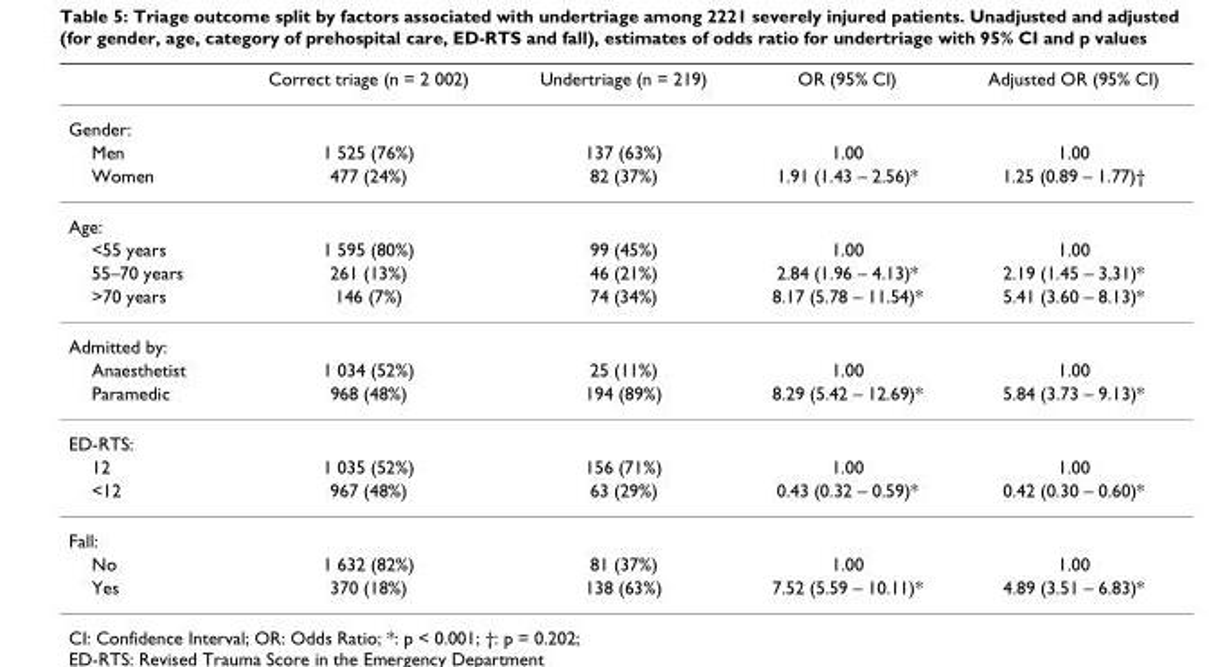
<table><thead><tr><td></td><td>Correct triage (n = 2 002)</td><td>Undertriage (n = 219)</td><td>OR (95% CI)</td><td>Adjusted OR (95% CI)</td></tr></thead><tbody><tr><td colspan="5">Gender:</td></tr><tr><td>Men</td><td>1 525 (76%)</td><td>137 (63%)</td><td>1.00</td><td>1.00</td></tr><tr><td>Women</td><td>477 (24%)</td><td>82 (37%)</td><td>1.91 (1.43 – 2.56)*</td><td>1.25 (0.89 – 1.77)†</td></tr><tr><td colspan="5">Age:</td></tr><tr><td>&lt;55 years</td><td>1 595 (80%)</td><td>99 (45%)</td><td>1.00</td><td>1.00</td></tr><tr><td>55–70 years</td><td>261 (13%)</td><td>46 (21%)</td><td>2.84 (1.96 – 4.13)*</td><td>2.19 (1.45 – 3,31)*</td></tr><tr><td>&gt;70 years</td><td>146 (7%)</td><td>74 (34%)</td><td>8.17 (5.78 – 11.54)*</td><td>5.41 (3.60 – 8.13)*</td></tr><tr><td colspan="5">Admitted by:</td></tr><tr><td>Anaesthetist</td><td>1 034 (52%)</td><td>25 (11%)</td><td>1.00</td><td>1.00</td></tr><tr><td>Paramedic</td><td>968 (48%)</td><td>194 (89%)</td><td>8.29 (5.42 – 12.69)*</td><td>5.84 (3.73 – 9.13)*</td></tr><tr><td colspan="5">ED-RTS:</td></tr><tr><td>12</td><td>1 035 (52%)</td><td>156 (71%)</td><td>1.00</td><td>1.00</td></tr><tr><td>&lt;12</td><td>967 (48%)</td><td>63 (29%)</td><td>0.43 (0.32 – 0.59)*</td><td>0.42 (0.30 – 0.60)*</td></tr><tr><td colspan="5">Fall:</td></tr><tr><td>No</td><td>1 632 (82%)</td><td>81 (37%)</td><td>1.00</td><td>1.00</td></tr><tr><td>Yes</td><td>370 (18%)</td><td>138 (63%)</td><td>7.52 (5.59 – 10.11)*</td><td>4.89 (3.51 – 6.83)*</td></tr></tbody></table>